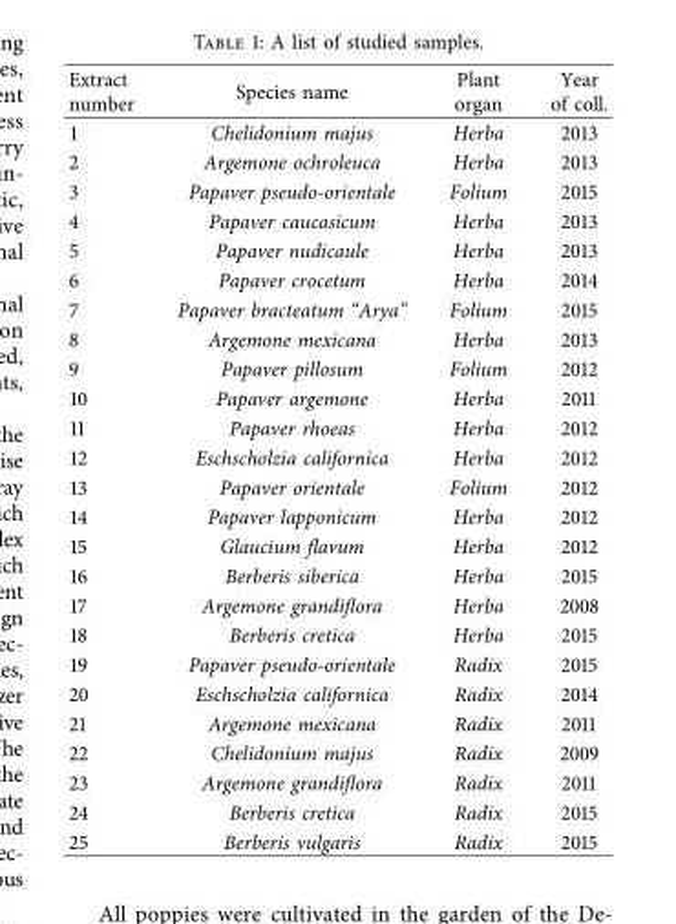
<table><thead><tr><td>Extract number</td><td>Species name</td><td>Plant organ</td><td>Year of coll.</td></tr></thead><tbody><tr><td>1</td><td>Chelidonium majus</td><td>Herba</td><td>2013</td></tr><tr><td>2</td><td>Argemone ochroleuca</td><td>Herba</td><td>2013</td></tr><tr><td>3</td><td>Papaver pseudo-orientale</td><td>Folium</td><td>2015</td></tr><tr><td>4</td><td>Papaver caucasicum</td><td>Herba</td><td>2013</td></tr><tr><td>5</td><td>Papaver nudicaule</td><td>Herba</td><td>2013</td></tr><tr><td>6</td><td>Papaver crocetum</td><td>Herba</td><td>2014</td></tr><tr><td>7</td><td>Papaver bracteatum “Arya”</td><td>Folium</td><td>2015</td></tr><tr><td>8</td><td>Argemone mexicana</td><td>Herba</td><td>2013</td></tr><tr><td>9</td><td>Papaver pillosum</td><td>Folium</td><td>2012</td></tr><tr><td>10</td><td>Papaver argemone</td><td>Herba</td><td>2011</td></tr><tr><td>11</td><td>Papaver rhoeas</td><td>Herba</td><td>2012</td></tr><tr><td>12</td><td>Eschscholzia californica</td><td>Herba</td><td>2012</td></tr><tr><td>13</td><td>Papaver orientale</td><td>Folium</td><td>2012</td></tr><tr><td>14</td><td>Papaver lapponicum</td><td>Herba</td><td>2012</td></tr><tr><td>15</td><td>Glaucium favum</td><td>Herba</td><td>2012</td></tr><tr><td>16</td><td>Berberis siberica</td><td>Herba</td><td>2015</td></tr><tr><td>17</td><td>Argemone grandifora</td><td>Herba</td><td>2008</td></tr><tr><td>18</td><td>Berberis cretica</td><td>Herba</td><td>2015</td></tr><tr><td>19</td><td>Papaver pseudo-orientale</td><td>Radix</td><td>2015</td></tr><tr><td>20</td><td>Eschscholzia californica</td><td>Radix</td><td>2014</td></tr><tr><td>21</td><td>Argemone mexicana</td><td>Radix</td><td>2011</td></tr><tr><td>22</td><td>Chelidonium majus</td><td>Radix</td><td>2009</td></tr><tr><td>23</td><td>Argemone grandifora</td><td>Radix</td><td>2011</td></tr><tr><td>24</td><td>Berberis cretica</td><td>Radix</td><td>2015</td></tr><tr><td>25</td><td>Berberis vulgaris</td><td>Radix</td><td>2015</td></tr></tbody></table>